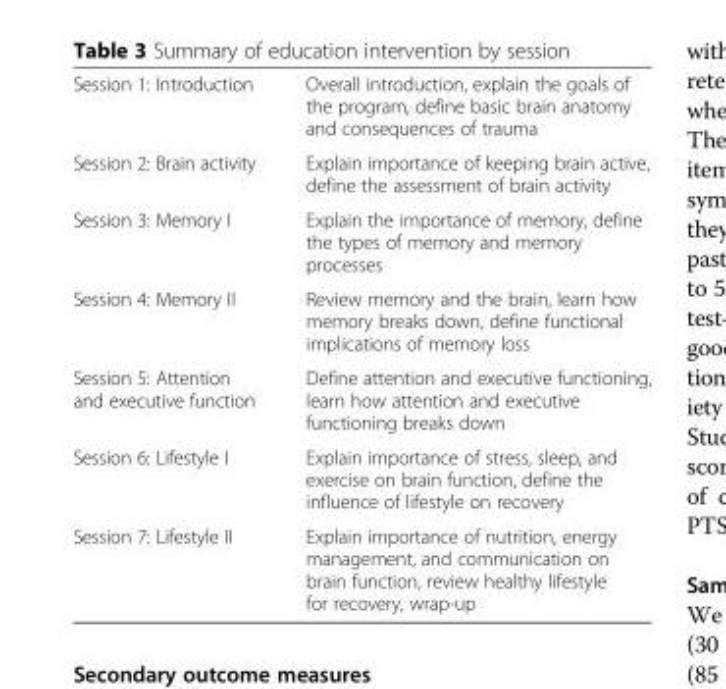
<table><tbody><tr><td>Session 1: Introduction</td><td>Overall introduction, explain the goals of the program, define basic brain anatomy and consequences of trauma</td></tr><tr><td>Session 2: Brain activity</td><td>Explain importance of keeping brain active, define the assessment of brain activity</td></tr><tr><td>Session 3: Memory I</td><td>Explain the importance of memory, define the types of memory and memory processes</td></tr><tr><td>Session 4: Memory II</td><td>Review memory and the brain, learn how memory breaks down, define functional implications of memory loss</td></tr><tr><td>Session 5: Attention and executive function</td><td>Define attention and executive functioning, learn how attention and executive functioning breaks down</td></tr><tr><td>Session 6: Lifestyle I</td><td>Explain importance of stress, sleep, and exercise on brain function, define the influence of lifestyle on recovery</td></tr><tr><td>Session 7: Lifestyle II</td><td>Explain importance of nutrition, energy management, and communication on brain function, review healthy lifestyle for recovery, wrap-up</td></tr></tbody></table>